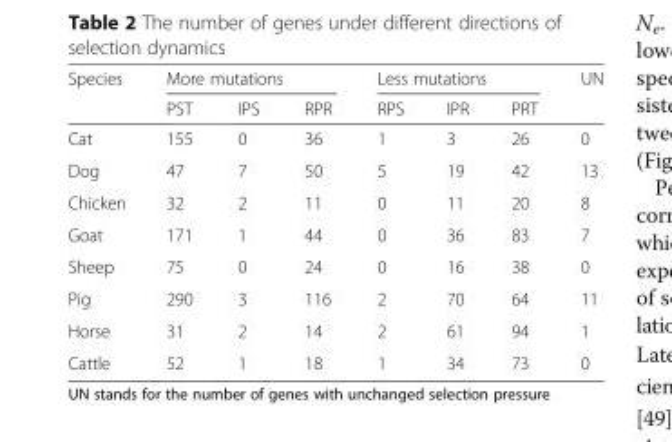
<table><thead><tr><td rowspan="2">Species</td><td colspan="3">More mutations</td><td colspan="3">Less mutations</td><td rowspan="2">UN</td></tr><tr><td>PST</td><td>IPS</td><td>RPR</td><td>RPS</td><td>IPR</td><td>PRT</td></tr></thead><tbody><tr><td>Cat</td><td>155</td><td>0</td><td>36</td><td>1</td><td>3</td><td>26</td><td>0</td></tr><tr><td>Dog</td><td>47</td><td>7</td><td>50</td><td>5</td><td>19</td><td>42</td><td>13</td></tr><tr><td>Chicken</td><td>32</td><td>2</td><td>11</td><td>0</td><td>11</td><td>20</td><td>8</td></tr><tr><td>Goat</td><td>171</td><td>1</td><td>44</td><td>0</td><td>36</td><td>83</td><td>7</td></tr><tr><td>Sheep</td><td>75</td><td>0</td><td>24</td><td>0</td><td>16</td><td>38</td><td>0</td></tr><tr><td>Pig</td><td>290</td><td>3</td><td>116</td><td>2</td><td>70</td><td>64</td><td>11</td></tr><tr><td>Horse</td><td>31</td><td>2</td><td>14</td><td>2</td><td>61</td><td>94</td><td>1</td></tr><tr><td>Cattle</td><td>52</td><td>1</td><td>18</td><td>1</td><td>34</td><td>73</td><td>0</td></tr></tbody></table>